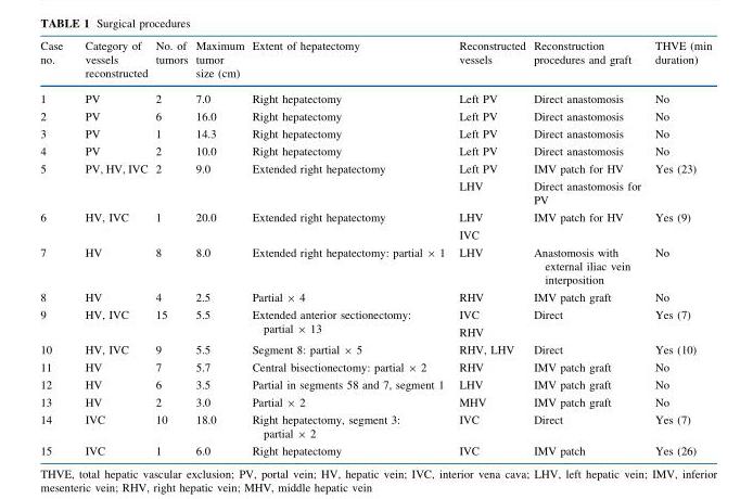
<table><thead><tr><td>Case no.</td><td>Category of vessels reconstructed</td><td>No. of tumors</td><td>Maximum tumor size (cm)</td><td>Extent of hepatectomy</td><td>Reconstructed vessels</td><td>Reconstruction procedures and graft</td><td>THVE (min duration)</td></tr></thead><tbody><tr><td>1</td><td>PV</td><td>2</td><td>7.0</td><td>Right hepatectomy</td><td>Left PV</td><td>Direct anastomosis</td><td>No</td></tr><tr><td>2</td><td>PV</td><td>6</td><td>16.0</td><td>Right hepatectomy</td><td>Left PV</td><td>Direct anastomosis</td><td>No</td></tr><tr><td>3</td><td>PV</td><td>1</td><td>14.3</td><td>Right hepatectomy</td><td>Left PV</td><td>Direct anastomosis</td><td>No</td></tr><tr><td>4</td><td>PV</td><td>2</td><td>10.0</td><td>Right hepatectomy</td><td>Left PV</td><td>Direct anastomosis</td><td>No</td></tr><tr><td>5</td><td>PV, HV, IVC</td><td>2</td><td>9.0</td><td>Extended right hepatectomy</td><td>Left PV LHV</td><td>IMV patch for HV Direct anastomosis for PV</td><td>Yes (23)</td></tr><tr><td>6</td><td>HV, IVC</td><td>1</td><td>20.0</td><td>Extended right hepatectomy</td><td>LHV IVC</td><td>IMV patch for HV</td><td>Yes (9)</td></tr><tr><td>7</td><td>HV</td><td>8</td><td>8.0</td><td>Extended right hepatectomy: partial × 1</td><td>LHV</td><td>Anastomosis with external iliac vein interposition</td><td>No</td></tr><tr><td>8</td><td>HV</td><td>4</td><td>2.5</td><td>Partial × 4</td><td>RHV</td><td>IMV patch graft</td><td>No</td></tr><tr><td>9</td><td>HV, IVC</td><td>15</td><td>5.5</td><td>Extended anterior sectionectomy: partial × 13</td><td>IVC RHV</td><td>Direct</td><td>Yes (7)</td></tr><tr><td>10</td><td>HV, IVC</td><td>9</td><td>5.5</td><td>Segment 8: partial × 5</td><td>RHV, LHV</td><td>Direct</td><td>Yes (10)</td></tr><tr><td>11</td><td>HV</td><td>7</td><td>5.7</td><td>Central bisectionectomy: partial × 2</td><td>RHV</td><td>IMV patch graft</td><td>No</td></tr><tr><td>12</td><td>HV</td><td>6</td><td>3.5</td><td>Partial in segments 58 and 7, segment 1</td><td>LHV</td><td>IMV patch graft</td><td>No</td></tr><tr><td>13</td><td>HV</td><td>2</td><td>3.0</td><td>Partial × 2</td><td>MHV</td><td>IMV patch graft</td><td>No</td></tr><tr><td>14</td><td>IVC</td><td>10</td><td>18.0</td><td>Right hepatectomy, segment 3: partial × 2</td><td>IVC</td><td>Direct</td><td>Yes (7)</td></tr><tr><td>15</td><td>IVC</td><td>1</td><td>6.0</td><td>Right hepatectomy</td><td>IVC</td><td>IMV patch</td><td>Yes (26)</td></tr></tbody></table>